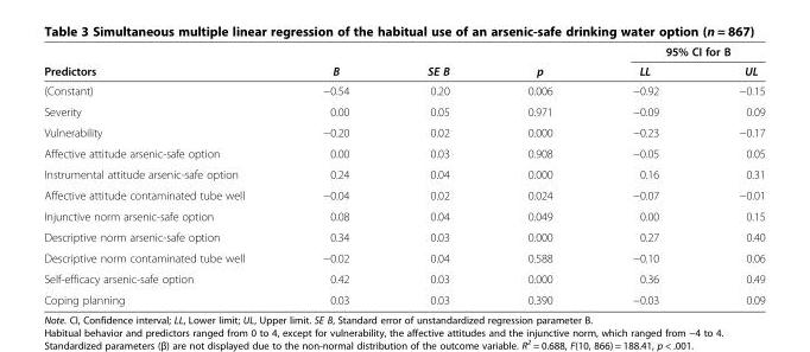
<table><thead><tr><td rowspan="2">Predictors</td><td rowspan="2">B</td><td rowspan="2">SE B</td><td rowspan="2">p</td><td colspan="2">95% CI for B</td></tr><tr><td>LL</td><td>UL</td></tr></thead><tbody><tr><td>(Constant)</td><td>−0.54</td><td>0.20</td><td>0.006</td><td>−0.92</td><td>−0.15</td></tr><tr><td>Severity</td><td>0.00</td><td>0.05</td><td>0.971</td><td>−0.09</td><td>0.09</td></tr><tr><td>Vulnerability</td><td>−0.20</td><td>0.02</td><td>0.000</td><td>−0.23</td><td>−0.17</td></tr><tr><td>Affective attitude arsenic-safe option</td><td>0.00</td><td>0.03</td><td>0.908</td><td>−0.05</td><td>0.05</td></tr><tr><td>Instrumental attitude arsenic-safe option</td><td>0.24</td><td>0.04</td><td>0.000</td><td>0.16</td><td>0.31</td></tr><tr><td>Affective attitude contaminated tube well</td><td>−0.04</td><td>0.02</td><td>0.024</td><td>−0.07</td><td>−0.01</td></tr><tr><td>Injunctive norm arsenic-safe option</td><td>0.08</td><td>0.04</td><td>0.049</td><td>0.00</td><td>0.15</td></tr><tr><td>Descriptive norm arsenic-safe option</td><td>0.34</td><td>0.03</td><td>0.000</td><td>0.27</td><td>0.40</td></tr><tr><td>Descriptive norm contaminated tube well</td><td>−0.02</td><td>0.04</td><td>0.588</td><td>−0.10</td><td>0.06</td></tr><tr><td>Self-efficacy arsenic-safe option</td><td>0.42</td><td>0.03</td><td>0.000</td><td>0.36</td><td>0.49</td></tr><tr><td>Coping planning</td><td>0.03</td><td>0.03</td><td>0.390</td><td>−0.03</td><td>0.09</td></tr></tbody></table>